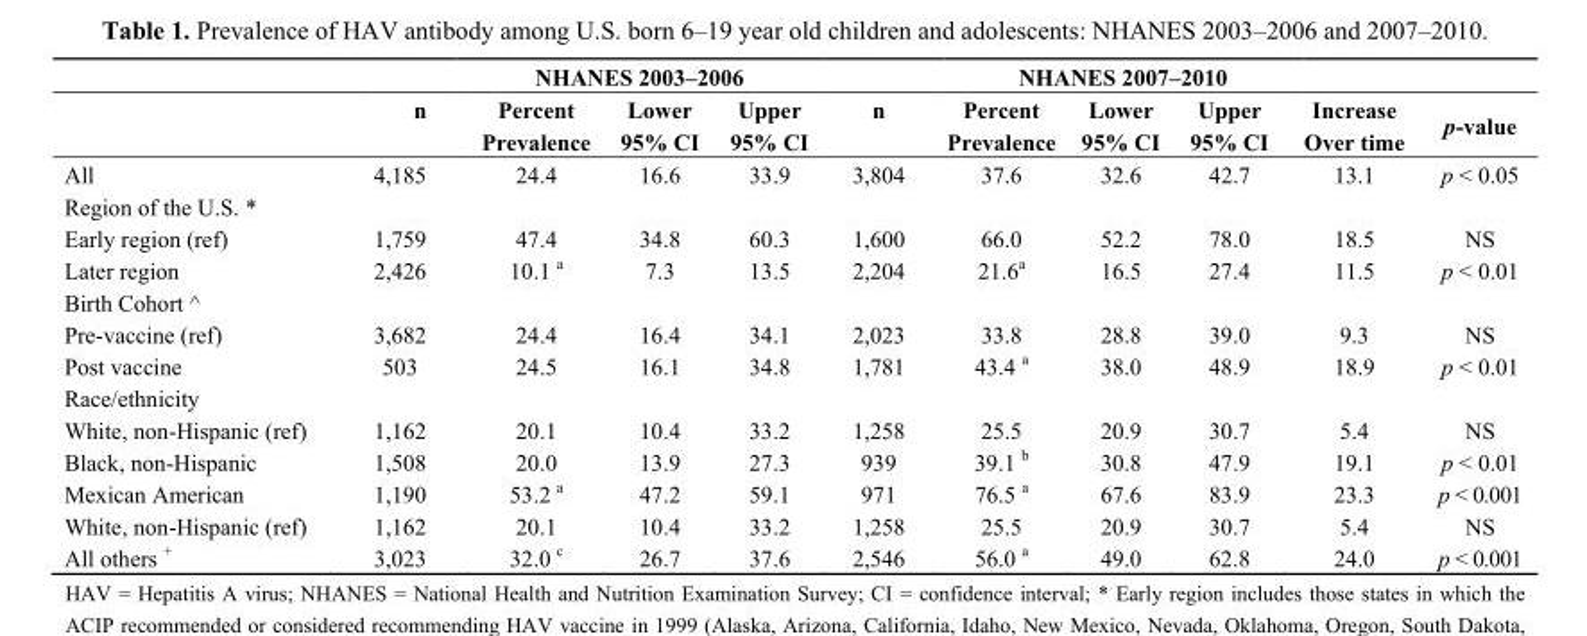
<table><thead><tr><td rowspan="3"></td><td rowspan="3">n</td><td colspan="3">NHANES 2003–2006</td><td rowspan="3">n</td><td colspan="3">NHANES 2007–2010</td><td rowspan="3">Increase Over time</td><td rowspan="3">p-value</td></tr><tr><td rowspan="2">Percent Prevalence</td><td rowspan="2">Lower 95% CI</td><td rowspan="2">Upper 95% CI</td><td rowspan="2">Percent Prevalence</td><td rowspan="2">Lower 95% CI</td><td rowspan="2">Upper 95% CI</td></tr><tr></tr></thead><tbody><tr><td>All</td><td>4,185</td><td>24.4</td><td>16.6</td><td>33.9</td><td>3,804</td><td>37.6</td><td>32.6</td><td>42.7</td><td>13.1</td><td>p &lt; 0.05</td></tr><tr><td colspan="11">Region of the U.S. *</td></tr><tr><td>Early region (ref)</td><td>1,759</td><td>47.4</td><td>34.8</td><td>60.3</td><td>1,600</td><td>66.0</td><td>52.2</td><td>78.0</td><td>18.5</td><td>NS</td></tr><tr><td>Later region</td><td>2,426</td><td>10.1 <sup>a</sup></td><td>7.3</td><td>13.5</td><td>2,204</td><td>21.6<sup>a</sup></td><td>16.5</td><td>27.4</td><td>11.5</td><td>p &lt; 0.01</td></tr><tr><td colspan="11">Birth Cohort ^</td></tr><tr><td>Pre-vaccine (ref)</td><td>3,682</td><td>24.4</td><td>16.4</td><td>34.1</td><td>2,023</td><td>33.8</td><td>28.8</td><td>39.0</td><td>9.3</td><td>NS</td></tr><tr><td>Post vaccine</td><td>503</td><td>24.5</td><td>16.1</td><td>34.8</td><td>1,781</td><td>43.4 <sup>a</sup></td><td>38.0</td><td>48.9</td><td>18.9</td><td>p &lt; 0.01</td></tr><tr><td colspan="11">Race/ethnicity</td></tr><tr><td>White, non-Hispanic (ref)</td><td>1,162</td><td>20.1</td><td>10.4</td><td>33.2</td><td>1,258</td><td>25.5</td><td>20.9</td><td>30.7</td><td>5.4</td><td>NS</td></tr><tr><td>Black, non-Hispanic</td><td>1,508</td><td>20.0</td><td>13.9</td><td>27.3</td><td>939</td><td>39.1 <sup>b</sup></td><td>30.8</td><td>47.9</td><td>19.1</td><td>p &lt; 0.01</td></tr><tr><td>Mexican American</td><td>1,190</td><td>53.2 <sup>a</sup></td><td>47.2</td><td>59.1</td><td>971</td><td>76.5 <sup>a</sup></td><td>67.6</td><td>83.9</td><td>23.3</td><td>p &lt; 0.001</td></tr><tr><td>White, non-Hispanic (ref)</td><td>1,162</td><td>20.1</td><td>10.4</td><td>33.2</td><td>1,258</td><td>25.5</td><td>20.9</td><td>30.7</td><td>5.4</td><td>NS</td></tr><tr><td>All others <sup>+</sup></td><td>3,023</td><td>32.0 <sup>c</sup></td><td>26.7</td><td>37.6</td><td>2,546</td><td>56.0 <sup>a</sup></td><td>49.0</td><td>62.8</td><td>24.0</td><td>p &lt; 0.001</td></tr></tbody></table>